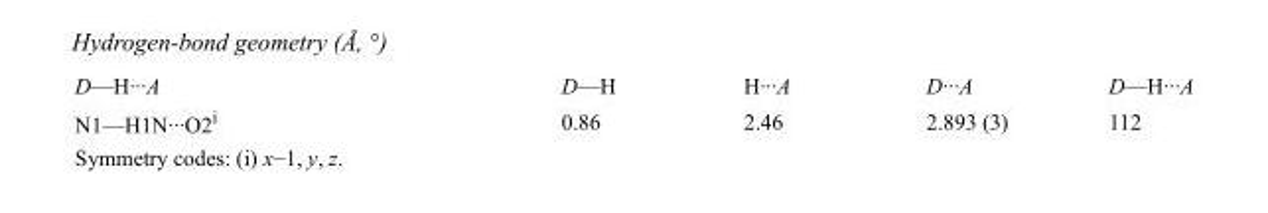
<table><tbody><tr><td>D—H···A</td><td>D—H</td><td>H···A</td><td>D···A</td><td>D—H···A</td></tr><tr><td>N1—H1N···O2<sup>i</sup></td><td>0.86</td><td>2.46</td><td>2.893 (3)</td><td>112</td></tr></tbody></table>